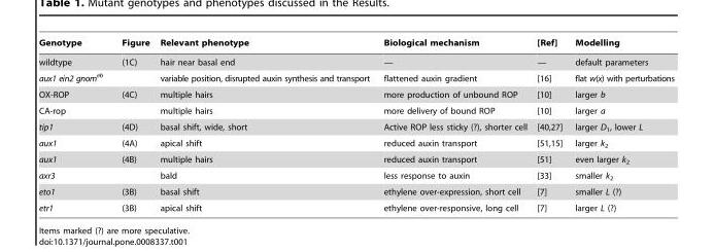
<table><thead><tr><td>Genotype</td><td>Figure</td><td>Relevant phenotype</td><td>Biological mechanism</td><td>[Ref]</td><td>Modelling</td></tr></thead><tbody><tr><td>wildtype</td><td>(1C)</td><td>hair near basal end</td><td>—</td><td>—</td><td>default parameters</td></tr><tr><td>aux1 ein2 gnom<sup>eb</sup></td><td></td><td>variable position, disrupted auxin synthesis and transport</td><td>flattened auxin gradient</td><td>[16]</td><td>flat w(x) with perturbations</td></tr><tr><td>OX-ROP</td><td>(4C)</td><td>multiple hairs</td><td>more production of unbound ROP</td><td>[10]</td><td>larger b</td></tr><tr><td>CA-rop</td><td></td><td>multiple hairs</td><td>more delivery of bound ROP</td><td>[10]</td><td>larger a</td></tr><tr><td>tip1</td><td>(4D)</td><td>basal shift, wide, short</td><td>Active ROP less sticky (?), shorter cell</td><td>[40,27]</td><td>larger D<sub>1</sub>, lower L</td></tr><tr><td>aux1</td><td>(4A)</td><td>apical shift</td><td>reduced auxin transport</td><td>[51,15]</td><td>larger k<sub>2</sub></td></tr><tr><td>aux1</td><td>(4B)</td><td>multiple hairs</td><td>reduced auxin transport</td><td>[51]</td><td>even larger k<sub>2</sub></td></tr><tr><td>axr3</td><td></td><td>bald</td><td>less response to auxin</td><td>[33]</td><td>smaller k<sub>2</sub></td></tr><tr><td>eto1</td><td>(3B)</td><td>basal shift</td><td>ethylene over-expression, short cell</td><td>[7]</td><td>smaller L (?)</td></tr><tr><td>etr1</td><td>(3B)</td><td>apical shift</td><td>ethylene over-responsive, long cell</td><td>[7]</td><td>larger L (?)</td></tr></tbody></table>